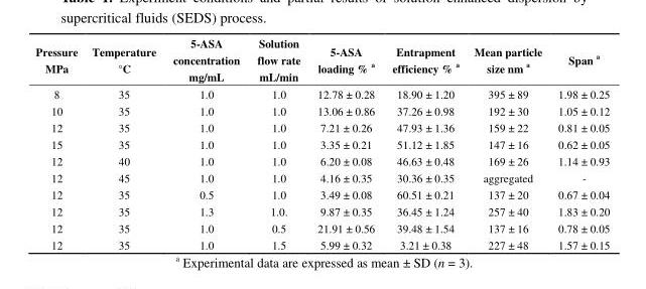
<table><thead><tr><td>Pressure MPa</td><td>Temperature °C</td><td>5-ASA concentration mg/mL</td><td>Solution flow rate mL/min</td><td>5-ASA loading % a</td><td>Entrapment efficiency % a</td><td>Mean particle size nm a</td><td>Span a</td></tr></thead><tbody><tr><td>8</td><td>35</td><td>1.0</td><td>1.0</td><td>12.78 ± 0.28</td><td>18.90 ± 1.20</td><td>395 ± 89</td><td>1.98 ± 0.25</td></tr><tr><td>10</td><td>35</td><td>1.0</td><td>1.0</td><td>13.06 ± 0.86</td><td>37.26 ± 0.98</td><td>192 ± 30</td><td>1.05 ± 0.12</td></tr><tr><td>12</td><td>35</td><td>1.0</td><td>1.0</td><td>7.21 ± 0.26</td><td>47.93 ± 1.36</td><td>159 ± 22</td><td>0.81 ± 0.05</td></tr><tr><td>15</td><td>35</td><td>1.0</td><td>1.0</td><td>3.35 ± 0.21</td><td>51.12 ± 1.85</td><td>147 ± 16</td><td>0.62 ± 0.05</td></tr><tr><td>12</td><td>40</td><td>1.0</td><td>1.0</td><td>6.20 ± 0.08</td><td>46.63 ± 0.48</td><td>169 ± 26</td><td>1.14 ± 0.93</td></tr><tr><td>12</td><td>45</td><td>1.0</td><td>1.0</td><td>4.16 ± 0.35</td><td>30.36 ± 0.35</td><td>aggregated</td><td>-</td></tr><tr><td>12</td><td>35</td><td>0.5</td><td>1.0</td><td>3.49 ± 0.08</td><td>60.51 ± 0.21</td><td>137 ± 20</td><td>0.67 ± 0.04</td></tr><tr><td>12</td><td>35</td><td>1.3</td><td>1.0.</td><td>9.87 ± 0.35</td><td>36.45 ± 1.24</td><td>257 ± 40</td><td>1.83 ± 0.20</td></tr><tr><td>12</td><td>35</td><td>1.0</td><td>0.5</td><td>21.91 ± 0.56</td><td>39.48 ± 1.54</td><td>137 ± 16</td><td>0.78 ± 0.05</td></tr><tr><td>12</td><td>35</td><td>1.0</td><td>1.5</td><td>5.99 ± 0.32</td><td>3.21 ± 0.38</td><td>227 ± 48</td><td>1.57 ± 0.15</td></tr></tbody></table>